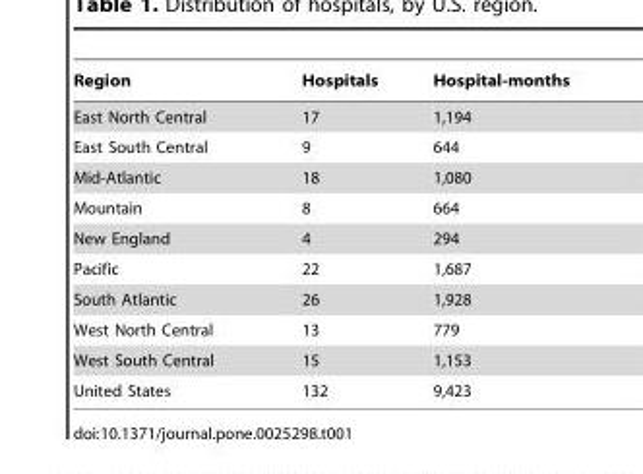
<table><thead><tr><td>Region</td><td>Hospitals</td><td>Hospital-months</td></tr></thead><tbody><tr><td>East North Central</td><td>17</td><td>1,194</td></tr><tr><td>East South Central</td><td>9</td><td>644</td></tr><tr><td>Mid-Atlantic</td><td>18</td><td>1,080</td></tr><tr><td>Mountain</td><td>8</td><td>664</td></tr><tr><td>New England</td><td>4</td><td>294</td></tr><tr><td>Pacific</td><td>22</td><td>1,687</td></tr><tr><td>South Atlantic</td><td>26</td><td>1,928</td></tr><tr><td>West North Central</td><td>13</td><td>779</td></tr><tr><td>West South Central</td><td>15</td><td>1,153</td></tr><tr><td>United States</td><td>132</td><td>9,423</td></tr></tbody></table>